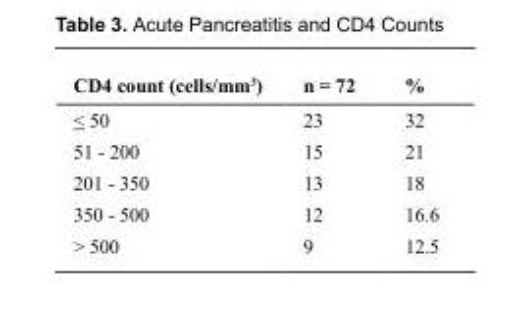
<table><thead><tr><td>CD4 count (cells/mm<sup>3</sup>)</td><td>n = 72</td><td>%</td></tr></thead><tbody><tr><td>&lt; 50</td><td>23</td><td>32</td></tr><tr><td>51 - 200</td><td>15</td><td>21</td></tr><tr><td>201 - 350</td><td>13</td><td>18</td></tr><tr><td>350 - 500</td><td>12</td><td>16.6</td></tr><tr><td>&gt; 500</td><td>9</td><td>12.5</td></tr></tbody></table>